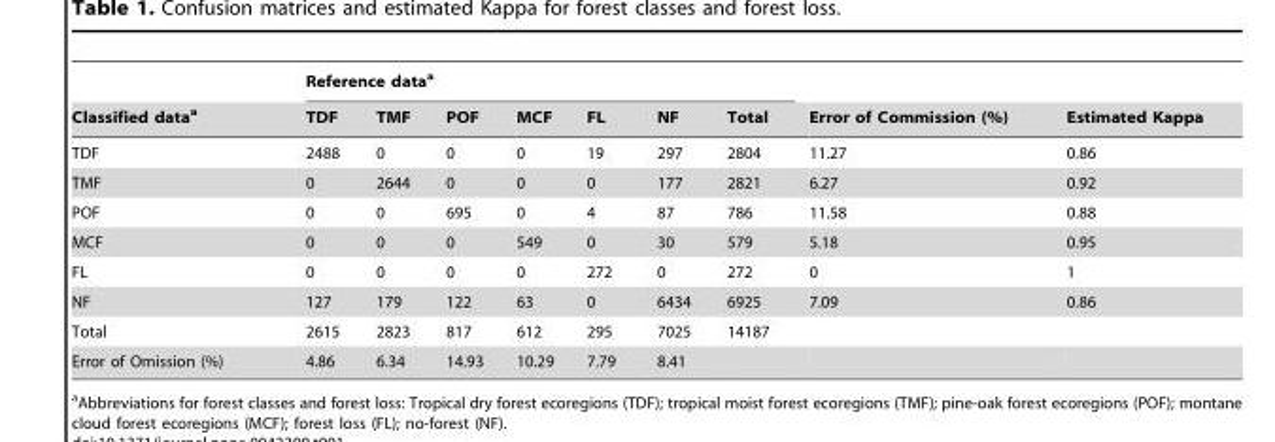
<table><thead><tr><td rowspan="2">Classified data<sup>a</sup></td><td colspan="7">Reference data<sup>a</sup></td><td rowspan="2">Error of Commission (%)</td><td rowspan="2">Estimated Kappa</td></tr><tr><td>TDF</td><td>TMF</td><td>POF</td><td>MCF</td><td>FL</td><td>NF</td><td>Total</td></tr></thead><tbody><tr><td>TDF</td><td>2488</td><td>0</td><td>0</td><td>0</td><td>19</td><td>297</td><td>2804</td><td>11.27</td><td>0.86</td></tr><tr><td>TMF</td><td>0</td><td>2644</td><td>0</td><td>0</td><td>0</td><td>177</td><td>2821</td><td>6.27</td><td>0.92</td></tr><tr><td>POF</td><td>0</td><td>0</td><td>695</td><td>0</td><td>4</td><td>87</td><td>786</td><td>11.58</td><td>0.88</td></tr><tr><td>MCF</td><td>0</td><td>0</td><td>0</td><td>549</td><td>0</td><td>30</td><td>579</td><td>5.18</td><td>0.95</td></tr><tr><td>FL</td><td>0</td><td>0</td><td>0</td><td>0</td><td>272</td><td>0</td><td>272</td><td>0</td><td>1</td></tr><tr><td>NF</td><td>127</td><td>179</td><td>122</td><td>63</td><td>0</td><td>6434</td><td>6925</td><td>7.09</td><td>0.86</td></tr><tr><td>Total</td><td>2615</td><td>2823</td><td>817</td><td>612</td><td>295</td><td>7025</td><td>14187</td><td></td><td></td></tr><tr><td>Error of Omission (%)</td><td>4.86</td><td>6.34</td><td>14.93</td><td>10.29</td><td>7.79</td><td>8.41</td><td></td><td></td><td></td></tr></tbody></table>